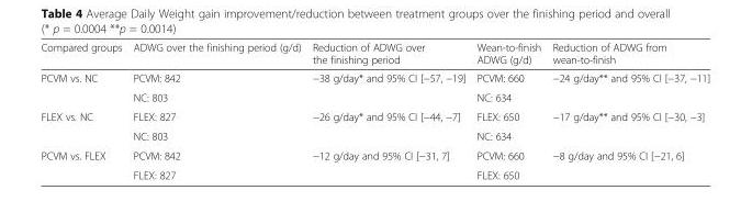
<table><thead><tr><td>Compared groups</td><td>ADWG over the finishing period (g/d)</td><td>Reduction of ADWG over the finishing period</td><td>Wean-to-finish ADWG (g/d)</td><td>Reduction of ADWG from wean-to-finish</td></tr></thead><tbody><tr><td rowspan="2">PCVM vs. NC</td><td>PCVM: 842</td><td rowspan="2">−38 g/day* and 95% CI [−57, −19]</td><td>PCVM: 660</td><td rowspan="2">−24 g/day** and 95% CI [−37, −11]</td></tr><tr><td>NC: 803</td><td>NC: 634</td></tr><tr><td rowspan="2">FLEX vs. NC</td><td>FLEX: 827</td><td rowspan="2">−26 g/day* and 95% CI [−44, −7]</td><td>FLEX: 650</td><td rowspan="2">−17 g/day** and 95% CI [−30, −3]</td></tr><tr><td>NC: 803</td><td>NC: 634</td></tr><tr><td rowspan="2">PCVM vs. FLEX</td><td>PCVM: 842</td><td rowspan="2">−12 g/day and 95% CI [−31, 7]</td><td>PCVM: 660</td><td rowspan="2">−8 g/day and 95% CI [−21, 6]</td></tr><tr><td>FLEX: 827</td><td>FLEX: 650</td></tr></tbody></table>